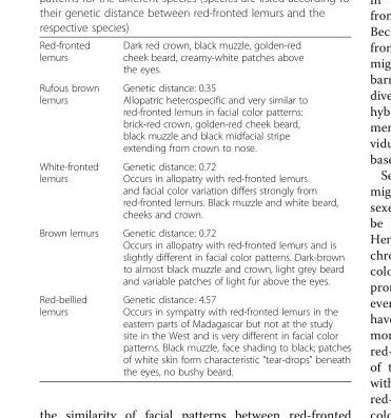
<table><tbody><tr><td>Red-fronted lemurs</td><td>Dark red crown, black muzzle, golden-red cheek beard, creamy-white patches above the eyes.</td></tr><tr><td>Rufous brown lemurs</td><td>Genetic distance: 0.35 Allopatric heterospecific and very similar to red-fronted lemurs in facial color patterns: brick-red crown, golden-red cheek beard, black muzzle and black midfacial stripe extending from crown to nose.</td></tr><tr><td>White-fronted lemurs</td><td>Genetic distance: 0.72 Occurs in allopatry with red-fronted lemurs and facial color variation differs strongly from red-fronted lemurs. Black muzzle and white beard, cheeks and crown.</td></tr><tr><td>Brown lemurs</td><td>Genetic distance: 0.72 Occurs in allopatry with red-fronted lemurs and is slightly different in facial color patterns. Dark-brown to almost black muzzle and crown, light grey beard and variable patches of light fur above the eyes.</td></tr><tr><td>Red-bellied lemurs</td><td>Genetic distance: 4.57 Occurs in sympatry with red-fronted lemurs in the eastern parts of Madagascar but not at the study site in the West and is very different in facial color patterns. Black muzzle, face shading to black; patches of white skin form characteristic “tear-drops” beneath the eyes, no bushy beard.</td></tr></tbody></table>